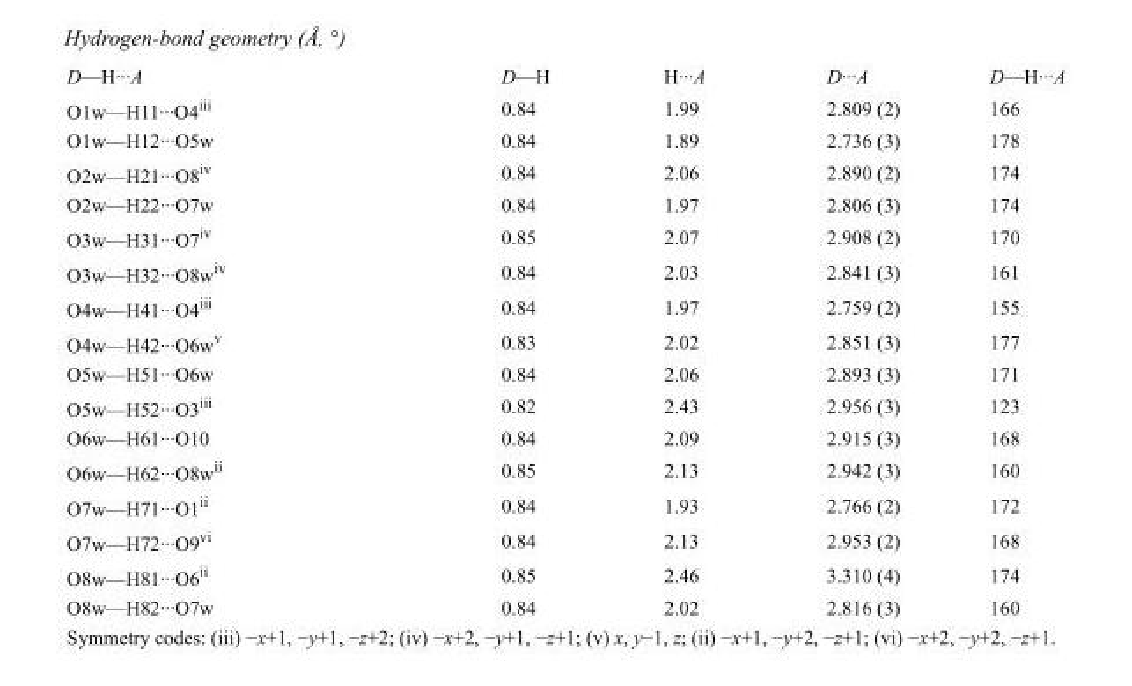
<table><tbody><tr><td>D—H···A</td><td>D—H</td><td>H···A</td><td>D···A</td><td>D—H···A</td></tr><tr><td>O1w—H11···O4<sup>iii</sup></td><td>0.84</td><td>1.99</td><td>2.809 (2)</td><td>166</td></tr><tr><td>O1w—H12···O5w</td><td>0.84</td><td>1.89</td><td>2.736 (3)</td><td>178</td></tr><tr><td>O2w—H21···O8<sup>iv</sup></td><td>0.84</td><td>2.06</td><td>2.890 (2)</td><td>174</td></tr><tr><td>O2w—H22···O7w</td><td>0.84</td><td>1.97</td><td>2.806 (3)</td><td>174</td></tr><tr><td>O3w—H31···O7<sup>iv</sup></td><td>0.85</td><td>2.07</td><td>2.908 (2)</td><td>170</td></tr><tr><td>O3w—H32···O8w<sup>iv</sup></td><td>0.84</td><td>2.03</td><td>2.841 (3)</td><td>161</td></tr><tr><td>O4w—H41···O4<sup>iii</sup></td><td>0.84</td><td>1.97</td><td>2.759 (2)</td><td>155</td></tr><tr><td>O4w—H42···O6w<sup>v</sup></td><td>0.83</td><td>2.02</td><td>2.851 (3)</td><td>177</td></tr><tr><td>O5w—H51···O6w</td><td>0.84</td><td>2.06</td><td>2.893 (3)</td><td>171</td></tr><tr><td>O5w—H52···O3<sup>iii</sup></td><td>0.82</td><td>2.43</td><td>2.956 (3)</td><td>123</td></tr><tr><td>O6w—H61···O10</td><td>0.84</td><td>2.09</td><td>2.915 (3)</td><td>168</td></tr><tr><td>O6w—H62···O8w<sup>ii</sup></td><td>0.85</td><td>2.13</td><td>2.942 (3)</td><td>160</td></tr><tr><td>O7w—H71···O1<sup>ii</sup></td><td>0.84</td><td>1.93</td><td>2.766 (2)</td><td>172</td></tr><tr><td>O7w—H72···O9<sup>vi</sup></td><td>0.84</td><td>2.13</td><td>2.953 (2)</td><td>168</td></tr><tr><td>O8w—H81···O6<sup>ii</sup></td><td>0.85</td><td>2.46</td><td>3.310 (4)</td><td>174</td></tr><tr><td>O8w—H82···O7w</td><td>0.84</td><td>2.02</td><td>2.816 (3)</td><td>160</td></tr></tbody></table>